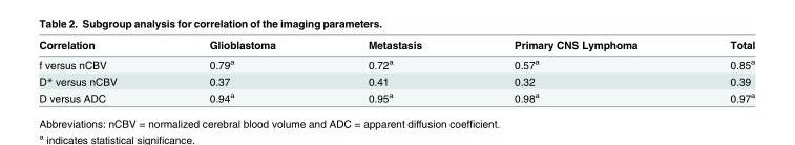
<table><thead><tr><td>Correlation</td><td>Glioblastoma</td><td>Metastasis</td><td>Primary CNS Lymphoma</td><td>Total</td></tr></thead><tbody><tr><td>f versus nCBV</td><td>0.79<sup>a</sup></td><td>0.72<sup>a</sup></td><td>0.57<sup>a</sup></td><td>0.85<sup>a</sup></td></tr><tr><td>D* versus nCBV</td><td>0.37</td><td>0.41</td><td>0.32</td><td>0.39</td></tr><tr><td>D versus ADC</td><td>0.94<sup>a</sup></td><td>0.95<sup>a</sup></td><td>0.98<sup>a</sup></td><td>0.97<sup>a</sup></td></tr></tbody></table>